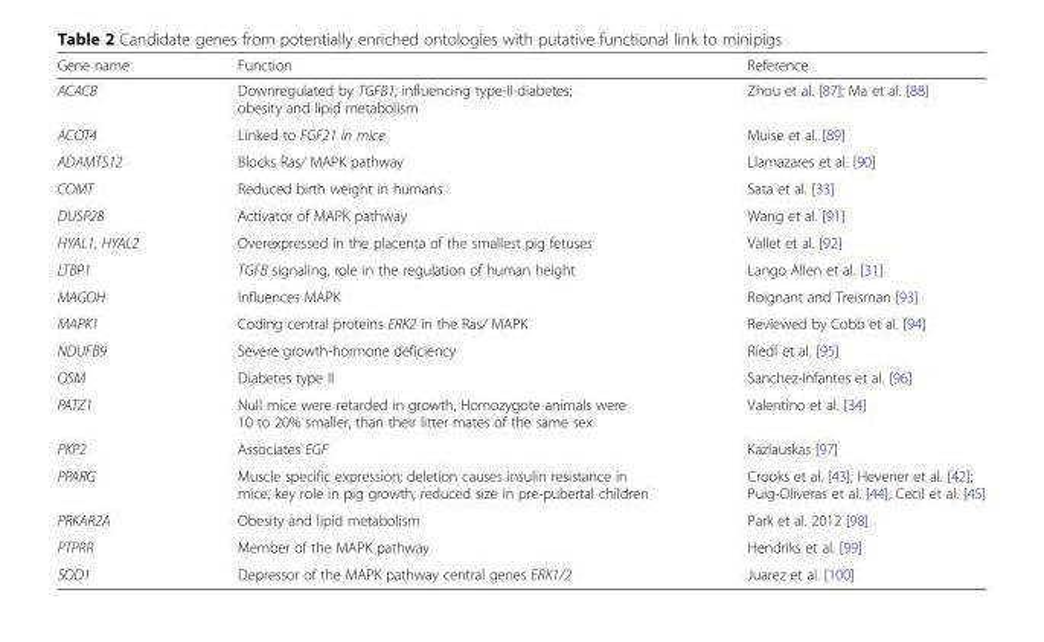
<table><thead><tr><td>Gene name</td><td>Function</td><td>Reference</td></tr></thead><tbody><tr><td>ACACB</td><td>Downregulated by TGFB1; influencing type-II-diabetes; obesity and lipid metabolism</td><td>Zhou et al. [87]; Ma et al. [88]</td></tr><tr><td>ACOT4</td><td>Linked to FGF21 in mice</td><td>Muise et al. [89]</td></tr><tr><td>ADAMTS12</td><td>Blocks Ras/ MAPK pathway</td><td>Llamazares et al. [90]</td></tr><tr><td>COMT</td><td>Reduced birth weight in humans</td><td>Sata et al. [33]</td></tr><tr><td>DUSP28</td><td>Activator of MAPK pathway</td><td>Wang et al. [91]</td></tr><tr><td>HYAL1, HYAL2</td><td>Overexpressed in the placenta of the smallest pig fetuses</td><td>Vallet et al. [92]</td></tr><tr><td>LTBP1</td><td>TGFB signaling, role in the regulation of human height</td><td>Lango Allen et al. [31]</td></tr><tr><td>MAGOH</td><td>Influences MAPK</td><td>Roignant and Treisman [93]</td></tr><tr><td>MAPK1</td><td>Coding central proteins ERK2 in the Ras/ MAPK</td><td>Reviewed by Cobb et al. [94]</td></tr><tr><td>NDUFB9</td><td>Severe growth-hormone deficiency</td><td>Riedl et al. [95]</td></tr><tr><td>OSM</td><td>Diabetes type II</td><td>Sanchez-Infantes et al. [96]</td></tr><tr><td>PATZ1</td><td>Null mice were retarded in growth, Homozygote animals were 10 to 20% smaller, than their litter mates of the same sex</td><td>Valentino et al. [34]</td></tr><tr><td>PKP2</td><td>Associates EGF</td><td>Kazlauskas [97]</td></tr><tr><td>PPARG</td><td>Muscle specific expression; deletion causes insulin resistance in mice; key role in pig growth; reduced size in pre-pubertal children</td><td>Crooks et al. [43]; Hevener et al. [42]; Puig-Oliveras et al. [44]; Cecil et al. [45]</td></tr><tr><td>PRKAR2A</td><td>Obesity and lipid metabolism</td><td>Park et al. 2012 [98]</td></tr><tr><td>PTPRR</td><td>Member of the MAPK pathway</td><td>Hendriks et al. [99]</td></tr><tr><td>SOD1</td><td>Depressor of the MAPK pathway central genes ERK1/2</td><td>Juarez et al. [100]</td></tr></tbody></table>